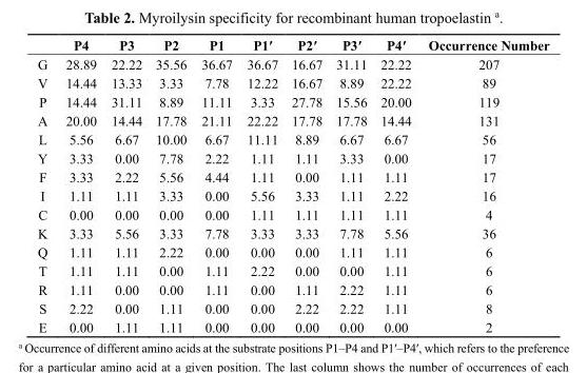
<table><thead><tr><td></td><td>P4</td><td>P3</td><td>P2</td><td>P1</td><td>P1′</td><td>P2′</td><td>P3′</td><td>P4′</td><td>Occurrence Number</td></tr></thead><tbody><tr><td>G</td><td>28.89</td><td>22.22</td><td>35.56</td><td>36.67</td><td>36.67</td><td>16.67</td><td>31.11</td><td>22.22</td><td>207</td></tr><tr><td>V</td><td>14.44</td><td>13.33</td><td>3.33</td><td>7.78</td><td>12.22</td><td>16.67</td><td>8.89</td><td>22.22</td><td>89</td></tr><tr><td>P</td><td>14.44</td><td>31.11</td><td>8.89</td><td>11.11</td><td>3.33</td><td>27.78</td><td>15.56</td><td>20.00</td><td>119</td></tr><tr><td>A</td><td>20.00</td><td>14.44</td><td>17.78</td><td>21.11</td><td>22.22</td><td>17.78</td><td>17.78</td><td>14.44</td><td>131</td></tr><tr><td>L</td><td>5.56</td><td>6.67</td><td>10.00</td><td>6.67</td><td>11.11</td><td>8.89</td><td>6.67</td><td>6.67</td><td>56</td></tr><tr><td>Y</td><td>3.33</td><td>0.00</td><td>7.78</td><td>2.22</td><td>1.11</td><td>1.11</td><td>3.33</td><td>0.00</td><td>17</td></tr><tr><td>F</td><td>3.33</td><td>2.22</td><td>5.56</td><td>4.44</td><td>1.11</td><td>0.00</td><td>1.11</td><td>1.11</td><td>17</td></tr><tr><td>I</td><td>1.11</td><td>1.11</td><td>3.33</td><td>0.00</td><td>5.56</td><td>3.33</td><td>1.11</td><td>2.22</td><td>16</td></tr><tr><td>C</td><td>0.00</td><td>0.00</td><td>0.00</td><td>0.00</td><td>1.11</td><td>1.11</td><td>1.11</td><td>1.11</td><td>4</td></tr><tr><td>K</td><td>3.33</td><td>5.56</td><td>3.33</td><td>7.78</td><td>3.33</td><td>3.33</td><td>7.78</td><td>5.56</td><td>36</td></tr><tr><td>Q</td><td>1.11</td><td>1.11</td><td>2.22</td><td>0.00</td><td>0.00</td><td>0.00</td><td>1.11</td><td>1.11</td><td>6</td></tr><tr><td>T</td><td>1.11</td><td>1.11</td><td>0.00</td><td>1.11</td><td>2.22</td><td>0.00</td><td>0.00</td><td>1.11</td><td>6</td></tr><tr><td>R</td><td>1.11</td><td>0.00</td><td>0.00</td><td>1.11</td><td>0.00</td><td>1.11</td><td>2.22</td><td>1.11</td><td>6</td></tr><tr><td>S</td><td>2.22</td><td>0.00</td><td>1.11</td><td>0.00</td><td>0.00</td><td>2.22</td><td>2.22</td><td>1.11</td><td>8</td></tr><tr><td>E</td><td>0.00</td><td>1.11</td><td>1.11</td><td>0.00</td><td>0.00</td><td>0.00</td><td>0.00</td><td>0.00</td><td>2</td></tr></tbody></table>